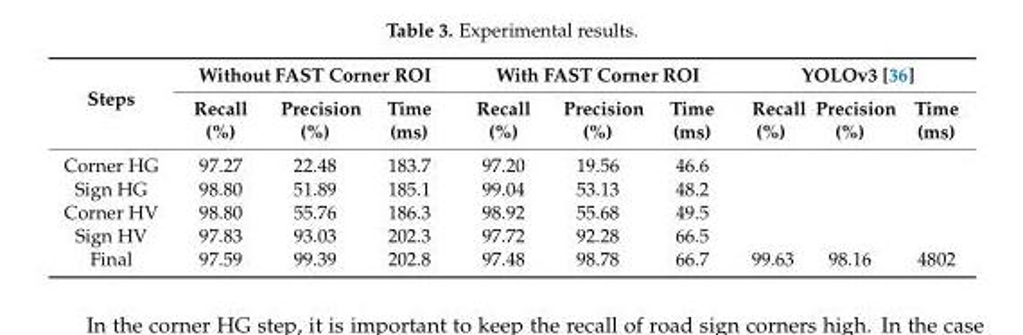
<table><thead><tr><td rowspan="2">Steps</td><td colspan="3">Without FAST Corner ROI</td><td colspan="3">With FAST Corner ROI</td><td colspan="3">YOLOv3 [36]</td></tr><tr><td>Recall (%)</td><td>Precision (%)</td><td>Time (ms)</td><td>Recall (%)</td><td>Precision (%)</td><td>Time (ms)</td><td>Recall (%)</td><td>Precision (%)</td><td>Time (ms)</td></tr></thead><tbody><tr><td>Corner HG</td><td>97.27</td><td>22.48</td><td>183.7</td><td>97.20</td><td>19.56</td><td>46.6</td><td></td><td></td><td></td></tr><tr><td>Sign HG</td><td>98.80</td><td>51.89</td><td>185.1</td><td>99.04</td><td>53.13</td><td>48.2</td><td></td><td></td><td></td></tr><tr><td>Corner HV</td><td>98.80</td><td>55.76</td><td>186.3</td><td>98.92</td><td>55.68</td><td>49.5</td><td></td><td></td><td></td></tr><tr><td>Sign HV</td><td>97.83</td><td>93.03</td><td>202.3</td><td>97.72</td><td>92.28</td><td>66.5</td><td></td><td></td><td></td></tr><tr><td>Final</td><td>97.59</td><td>99.39</td><td>202.8</td><td>97.48</td><td>98.78</td><td>66.7</td><td>99.63</td><td>98.16</td><td>4802</td></tr></tbody></table>